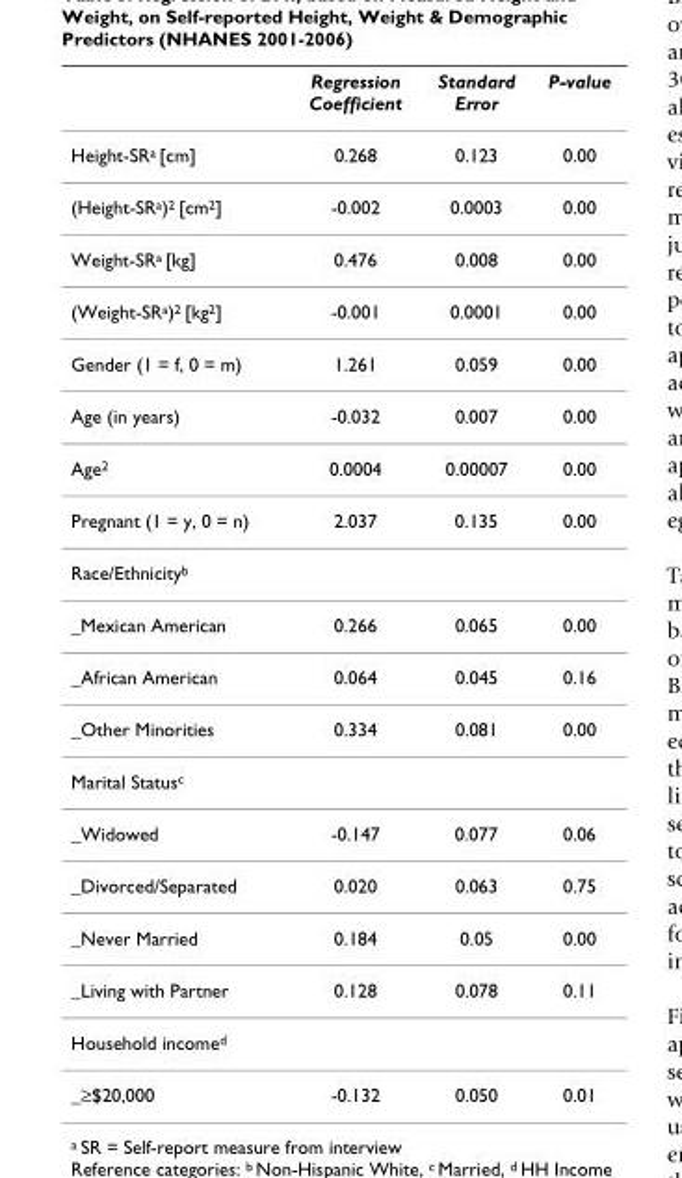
<table><thead><tr><td></td><td>Regression Coefficient</td><td>Standard Error</td><td>P-value</td></tr></thead><tbody><tr><td>Height-SR<sup>a</sup> [cm]</td><td>0.268</td><td>0.123</td><td>0.00</td></tr><tr><td>(Height-SR<sup>a</sup>)<sup>2</sup> [cm<sup>2</sup>]</td><td>-0.002</td><td>0.0003</td><td>0.00</td></tr><tr><td>Weight-SR<sup>a</sup> [kg]</td><td>0.476</td><td>0.008</td><td>0.00</td></tr><tr><td>(Weight-SR<sup>a</sup>)<sup>2</sup> [kg<sup>2</sup>]</td><td>-0.001</td><td>0.0001</td><td>0.00</td></tr><tr><td>Gender (1 = f, 0 = m)</td><td>1.261</td><td>0.059</td><td>0.00</td></tr><tr><td>Age (in years)</td><td>-0.032</td><td>0.007</td><td>0.00</td></tr><tr><td>Age<sup>2</sup></td><td>0.0004</td><td>0.00007</td><td>0.00</td></tr><tr><td>Pregnant (1 = y, 0 = n)</td><td>2.037</td><td>0.135</td><td>0.00</td></tr><tr><td colspan="4">Race/Ethnicity<sup>b</sup></td></tr><tr><td>_Mexican American</td><td>0.266</td><td>0.065</td><td>0.00</td></tr><tr><td>_African American</td><td>0.064</td><td>0.045</td><td>0.16</td></tr><tr><td>_Other Minorities</td><td>0.334</td><td>0.081</td><td>0.00</td></tr><tr><td colspan="4">Marital Status<sup>c</sup></td></tr><tr><td>_Widowed</td><td>-0.147</td><td>0.077</td><td>0.06</td></tr><tr><td>_Divorced/Separated</td><td>0.020</td><td>0.063</td><td>0.75</td></tr><tr><td>_Never Married</td><td>0.184</td><td>0.05</td><td>0.00</td></tr><tr><td>_Living with Partner</td><td>0.128</td><td>0.078</td><td>0.11</td></tr><tr><td colspan="4">Household income<sup>d</sup></td></tr><tr><td>_≥$20,000</td><td>-0.132</td><td>0.050</td><td>0.01</td></tr></tbody></table>